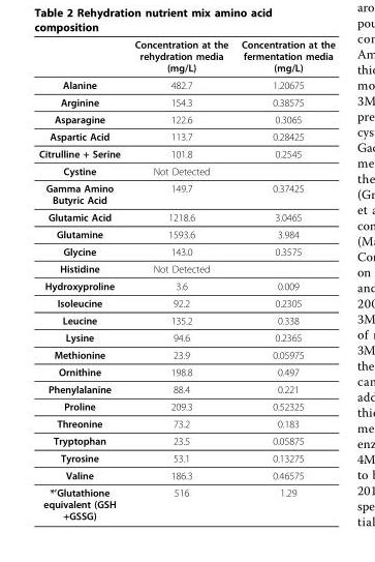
<table><thead><tr><td></td><td>Concentration at the rehydration media (mg/L)</td><td>Concentration at the fermentation media (mg/L)</td></tr></thead><tbody><tr><td>Alanine</td><td>482.7</td><td>1.20675</td></tr><tr><td>Arginine</td><td>154.3</td><td>0.38575</td></tr><tr><td>Asparagine</td><td>122.6</td><td>0.3065</td></tr><tr><td>Aspartic Acid</td><td>113.7</td><td>0.28425</td></tr><tr><td>Citrulline + Serine</td><td>101.8</td><td>0.2545</td></tr><tr><td>Cystine</td><td>Not Detected</td><td></td></tr><tr><td>Gamma Amino Butyric Acid</td><td>149.7</td><td>0.37425</td></tr><tr><td>Glutamic Acid</td><td>1218.6</td><td>3.0465</td></tr><tr><td>Glutamine</td><td>1593.6</td><td>3.984</td></tr><tr><td>Glycine</td><td>143.0</td><td>0.3575</td></tr><tr><td>Histidine</td><td>Not Detected</td><td></td></tr><tr><td>Hydroxyproline</td><td>3.6</td><td>0.009</td></tr><tr><td>Isoleucine</td><td>92.2</td><td>0.2305</td></tr><tr><td>Leucine</td><td>135.2</td><td>0.338</td></tr><tr><td>Lysine</td><td>94.6</td><td>0.2365</td></tr><tr><td>Methionine</td><td>23.9</td><td>0.05975</td></tr><tr><td>Ornithine</td><td>198.8</td><td>0.497</td></tr><tr><td>Phenylalanine</td><td>88.4</td><td>0.221</td></tr><tr><td>Proline</td><td>209.3</td><td>0.52325</td></tr><tr><td>Threonine</td><td>73.2</td><td>0.183</td></tr><tr><td>Tryptophan</td><td>23.5</td><td>0.05875</td></tr><tr><td>Tyrosine</td><td>53.1</td><td>0.13275</td></tr><tr><td>Valine</td><td>186.3</td><td>0.46575</td></tr><tr><td>*’Glutathione equivalent (GSH +GSSG)</td><td>516</td><td>1.29</td></tr></tbody></table>